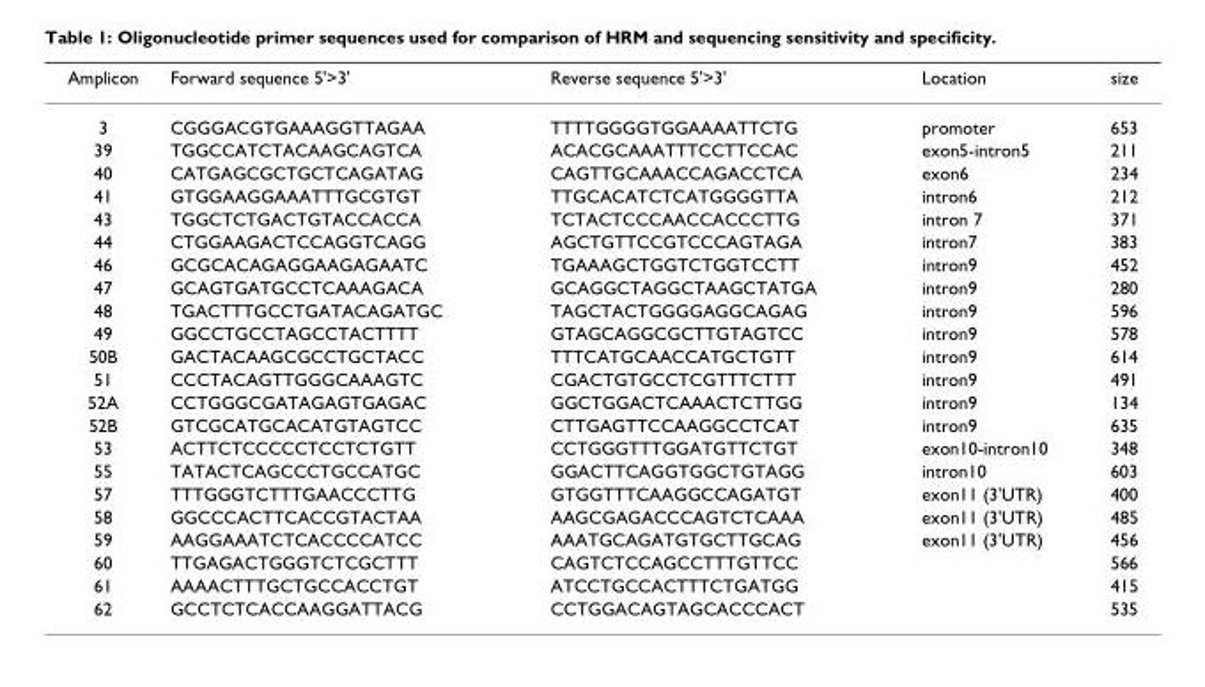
<table><thead><tr><td>Amplicon</td><td>Forward sequence 5&#x27;&gt;3&#x27;</td><td>Reverse sequence 5&#x27;&gt;3&#x27;</td><td>Location</td><td>size</td></tr></thead><tbody><tr><td>3</td><td>CGGGACGTGAAAGGTTAGAA</td><td>TTTTGGGGTGGAAAATTCTG</td><td>promoter</td><td>653</td></tr><tr><td>39</td><td>TGGCCATCTACAAGCAGTCA</td><td>ACACGCAAATTTCCTTCCAC</td><td>exon5-intron5</td><td>211</td></tr><tr><td>40</td><td>CATGAGCGCTGCTCAGATAG</td><td>CAGTTGCAAACCAGACCTCA</td><td>exon6</td><td>234</td></tr><tr><td>41</td><td>GTGGAAGGAAATTTGCGTGT</td><td>TTGCACATCTCATGGGGTTA</td><td>intron6</td><td>212</td></tr><tr><td>43</td><td>TGGCTCTGACTGTACCACCA</td><td>TCTACTCCCAACCACCCTTG</td><td>intron 7</td><td>371</td></tr><tr><td>44</td><td>CTGGAAGACTCCAGGTCAGG</td><td>AGCTGTTCCGTCCCAGTAGA</td><td>intron7</td><td>383</td></tr><tr><td>46</td><td>GCGCACAGAGGAAGAGAATC</td><td>TGAAAGCTGGTCTGGTCCTT</td><td>intron9</td><td>452</td></tr><tr><td>47</td><td>GCAGTGATGCCTCAAAGACA</td><td>GCAGGCTAGGCTAAGCTATGA</td><td>intron9</td><td>280</td></tr><tr><td>48</td><td>TGACTTTGCCTGATACAGATGC</td><td>TAGCTACTGGGGAGGCAGAG</td><td>intron9</td><td>596</td></tr><tr><td>49</td><td>GGCCTGCCTAGCCTACTTTT</td><td>GTAGCAGGCGCTTGTAGTCC</td><td>intron9</td><td>578</td></tr><tr><td>50B</td><td>GACTACAAGCGCCTGCTACC</td><td>TTTCATGCAACCATGCTGTT</td><td>intron9</td><td>614</td></tr><tr><td>51</td><td>CCCTACAGTTGGGCAAAGTC</td><td>CGACTGTGCCTCGTTTCTTT</td><td>intron9</td><td>491</td></tr><tr><td>52A</td><td>CCTGGGCGATAGAGTGAGAC</td><td>GGCTGGACTCAAACTCTTGG</td><td>intron9</td><td>134</td></tr><tr><td>52B</td><td>GTCGCATGCACATGTAGTCC</td><td>CTTGAGTTCCAAGGCCTCAT</td><td>intron9</td><td>635</td></tr><tr><td>53</td><td>ACTTCTCCCCCTCCTCTGTT</td><td>CCTGGGTTTGGATGTTCTGT</td><td>exon10-intron10</td><td>348</td></tr><tr><td>55</td><td>TATACTCAGCCCTGCCATGC</td><td>GGACTTCAGGTGGCTGTAGG</td><td>intron10</td><td>603</td></tr><tr><td>57</td><td>TTTGGGTCTTTGAACCCTTG</td><td>GTGGTTTCAAGGCCAGATGT</td><td>exon11 (3&#x27;UTR)</td><td>400</td></tr><tr><td>58</td><td>GGCCCACTTCACCGTACTAA</td><td>AAGCGAGACCCAGTCTCAAA</td><td>exon11 (3&#x27;UTR)</td><td>485</td></tr><tr><td>59</td><td>AAGGAAATCTCACCCCATCC</td><td>AAATGCAGATGTGCTTGCAG</td><td>exon11 (3&#x27;UTR)</td><td>456</td></tr><tr><td>60</td><td>TTGAGACTGGGTCTCGCTTT</td><td>CAGTCTCCAGCCTTTGTTCC</td><td></td><td>566</td></tr><tr><td>61</td><td>AAAACTTTGCTGCCACCTGT</td><td>ATCCTGCCACTTTCTGATGG</td><td></td><td>415</td></tr><tr><td>62</td><td>GCCTCTCACCAAGGATTACG</td><td>CCTGGACAGTAGCACCCACT</td><td></td><td>535</td></tr></tbody></table>